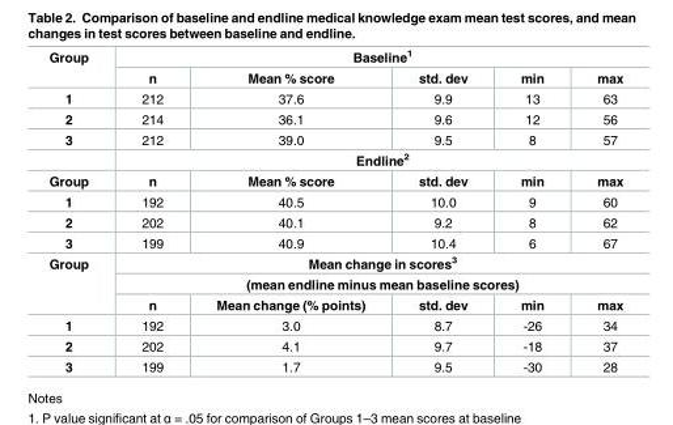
<table><tbody><tr><td rowspan="2">Group</td><td colspan="5">Baseline<sup>1</sup></td></tr><tr><td>n</td><td>Mean % score</td><td>std. dev</td><td>min</td><td>max</td></tr><tr><td>1</td><td>212</td><td>37.6</td><td>9.9</td><td>13</td><td>63</td></tr><tr><td>2</td><td>214</td><td>36.1</td><td>9.6</td><td>12</td><td>56</td></tr><tr><td rowspan="2">3</td><td>212</td><td>39.0</td><td>9.5</td><td>8</td><td>57</td></tr><tr><td colspan="5">Endline<sup>2</sup></td></tr><tr><td>Group</td><td>n</td><td>Mean % score</td><td>std. dev</td><td>min</td><td>max</td></tr><tr><td>1</td><td>192</td><td>40.5</td><td>10.0</td><td>9</td><td>60</td></tr><tr><td>2</td><td>202</td><td>40.1</td><td>9.2</td><td>8</td><td>62</td></tr><tr><td>3</td><td>199</td><td>40.9</td><td>10.4</td><td>6</td><td>67</td></tr><tr><td rowspan="3">Group</td><td colspan="5">Mean change in scores<sup>3</sup></td></tr><tr><td colspan="5">(mean endline minus mean baseline scores)</td></tr><tr><td>n</td><td>Mean change (% points)</td><td>std. dev</td><td>min</td><td>max</td></tr><tr><td>1</td><td>192</td><td>3.0</td><td>8.7</td><td>-26</td><td>34</td></tr><tr><td>2</td><td>202</td><td>4.1</td><td>9.7</td><td>-18</td><td>37</td></tr><tr><td>3</td><td>199</td><td>1.7</td><td>9.5</td><td>-30</td><td>28</td></tr></tbody></table>